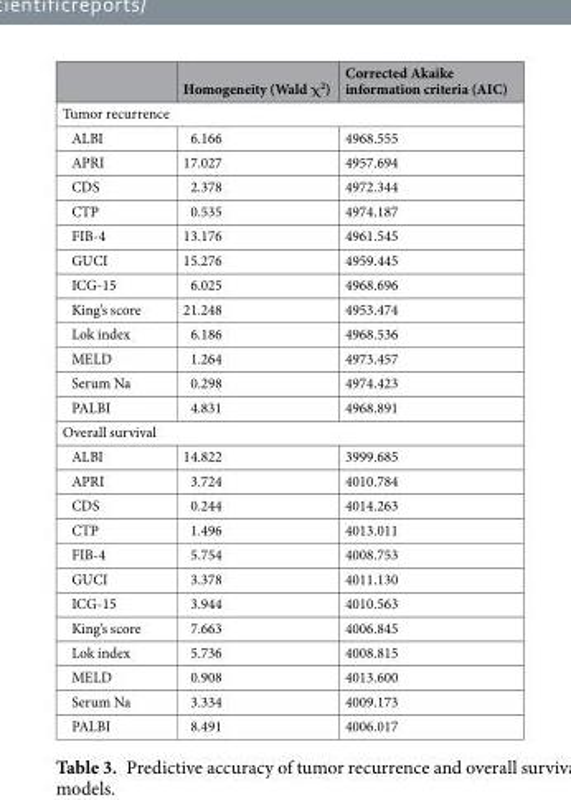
<table><thead><tr><td></td><td>Homogeneity (Wald χ<sup>2</sup>)</td><td>Corrected Akaike information criteria (AIC)</td></tr></thead><tbody><tr><td colspan="3">Tumor recurrence</td></tr><tr><td>ALBI</td><td>6.166</td><td>4968.555</td></tr><tr><td>APRI</td><td>17.027</td><td>4957.694</td></tr><tr><td>CDS</td><td>2.378</td><td>4972.344</td></tr><tr><td>CTP</td><td>0.535</td><td>4974.187</td></tr><tr><td>FIB-4</td><td>13.176</td><td>4961.545</td></tr><tr><td>GUCI</td><td>15.276</td><td>4959.445</td></tr><tr><td>ICG-15</td><td>6.025</td><td>4968.696</td></tr><tr><td>King’s score</td><td>21.248</td><td>4953.474</td></tr><tr><td>Lok index</td><td>6.186</td><td>4968.536</td></tr><tr><td>MELD</td><td>1.264</td><td>4973.457</td></tr><tr><td>Serum Na</td><td>0.298</td><td>4974.423</td></tr><tr><td>PALBI</td><td>4.831</td><td>4968.891</td></tr><tr><td colspan="3">Overall survival</td></tr><tr><td>ALBI</td><td>14.822</td><td>3999.685</td></tr><tr><td>APRI</td><td>3.724</td><td>4010.784</td></tr><tr><td>CDS</td><td>0.244</td><td>4014.263</td></tr><tr><td>CTP</td><td>1.496</td><td>4013.011</td></tr><tr><td>FIB-4</td><td>5.754</td><td>4008.753</td></tr><tr><td>GUCI</td><td>3.378</td><td>4011.130</td></tr><tr><td>ICG-15</td><td>3.944</td><td>4010.563</td></tr><tr><td>King’s score</td><td>7.663</td><td>4006.845</td></tr><tr><td>Lok index</td><td>5.736</td><td>4008.815</td></tr><tr><td>MELD</td><td>0.908</td><td>4013.600</td></tr><tr><td>Serum Na</td><td>3.334</td><td>4009.173</td></tr><tr><td>PALBI</td><td>8.491</td><td>4006.017</td></tr></tbody></table>